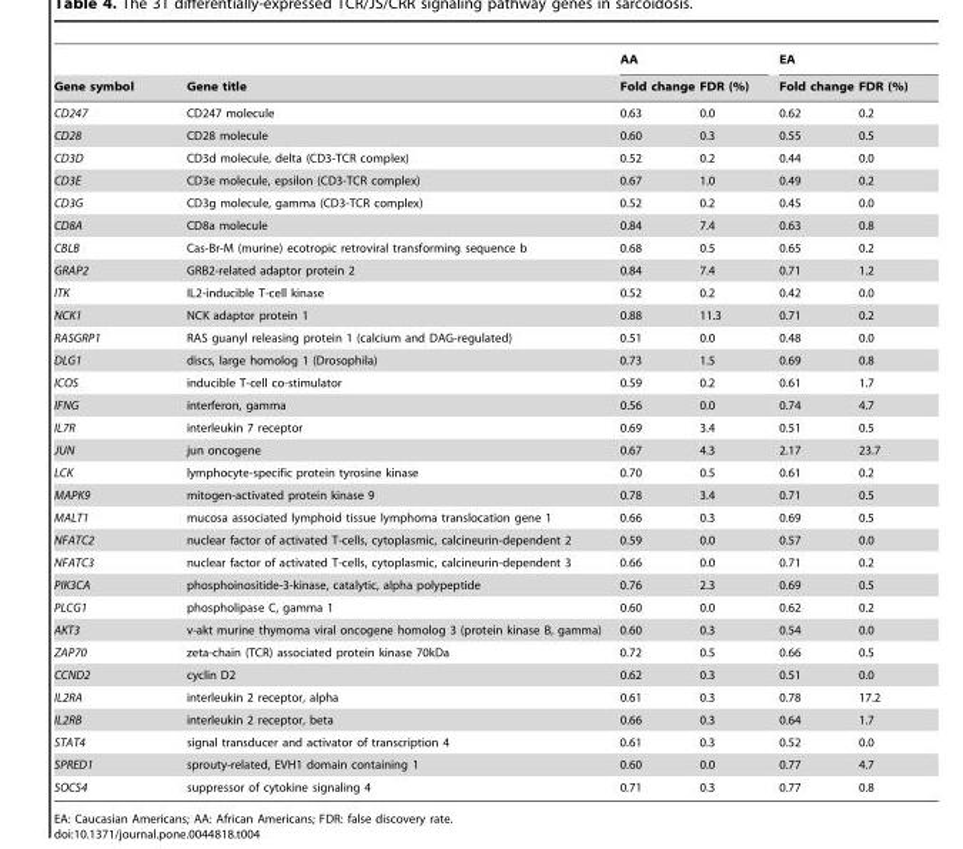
<table><thead><tr><td rowspan="2">Gene symbol</td><td rowspan="2">Gene title</td><td colspan="2">AA</td><td colspan="2">EA</td></tr><tr><td>Fold change</td><td>FDR (%)</td><td>Fold change</td><td>FDR (%)</td></tr></thead><tbody><tr><td>CD247</td><td>CD247 molecule</td><td>0.63</td><td>0.0</td><td>0.62</td><td>0.2</td></tr><tr><td>CD28</td><td>CD28 molecule</td><td>0.60</td><td>0.3</td><td>0.55</td><td>0.5</td></tr><tr><td>CD3D</td><td>CD3d molecule, delta (CD3-TCR complex)</td><td>0.52</td><td>0.2</td><td>0.44</td><td>0.0</td></tr><tr><td>CD3E</td><td>CD3e molecule, epsilon (CD3-TCR complex)</td><td>0.67</td><td>1.0</td><td>0.49</td><td>0.2</td></tr><tr><td>CD3G</td><td>CD3g molecule, gamma (CD3-TCR complex)</td><td>0.52</td><td>0.2</td><td>0.45</td><td>0.0</td></tr><tr><td>CD8A</td><td>CD8a molecule</td><td>0.84</td><td>7.4</td><td>0.63</td><td>0.8</td></tr><tr><td>CBLB</td><td>Cas-Br-M (murine) ecotropic retroviral transforming sequence b</td><td>0.68</td><td>0.5</td><td>0.65</td><td>0.2</td></tr><tr><td>GRAP2</td><td>GRB2-related adaptor protein 2</td><td>0.84</td><td>7.4</td><td>0.71</td><td>1.2</td></tr><tr><td>ITK</td><td>IL2-inducible T-cell kinase</td><td>0.52</td><td>0.2</td><td>0.42</td><td>0.0</td></tr><tr><td>NCK1</td><td>NCK adaptor protein 1</td><td>0.88</td><td>11.3</td><td>0.71</td><td>0.2</td></tr><tr><td>RASGRP1</td><td>RAS guanyl releasing protein 1 (calcium and DAG-regulated)</td><td>0.51</td><td>0.0</td><td>0.48</td><td>0.0</td></tr><tr><td>DLG1</td><td>discs, large homolog 1 (Drosophila)</td><td>0.73</td><td>1.5</td><td>0.69</td><td>0.8</td></tr><tr><td>ICOS</td><td>inducible T-cell co-stimulator</td><td>0.59</td><td>0.2</td><td>0.61</td><td>1.7</td></tr><tr><td>IFNG</td><td>interferon, gamma</td><td>0.56</td><td>0.0</td><td>0.74</td><td>4.7</td></tr><tr><td>IL7R</td><td>interleukin 7 receptor</td><td>0.69</td><td>3.4</td><td>0.51</td><td>0.5</td></tr><tr><td>JUN</td><td>jun oncogene</td><td>0.67</td><td>4.3</td><td>2.17</td><td>23.7</td></tr><tr><td>LCK</td><td>lymphocyte-specific protein tyrosine kinase</td><td>0.70</td><td>0.5</td><td>0.61</td><td>0.2</td></tr><tr><td>MAPK9</td><td>mitogen-activated protein kinase 9</td><td>0.78</td><td>3.4</td><td>0.71</td><td>0.5</td></tr><tr><td>MALT1</td><td>mucosa associated lymphoid tissue lymphoma translocation gene 1</td><td>0.66</td><td>0.3</td><td>0.69</td><td>0.5</td></tr><tr><td>NFATC2</td><td>nuclear factor of activated T-cells, cytoplasmic, calcineurin-dependent 2</td><td>0.59</td><td>0.0</td><td>0.57</td><td>0.0</td></tr><tr><td>NFATC3</td><td>nuclear factor of activated T-cells, cytoplasmic, calcineurin-dependent 3</td><td>0.66</td><td>0.0</td><td>0.71</td><td>0.2</td></tr><tr><td>PIK3CA</td><td>phosphoinositide-3-kinase, catalytic, alpha polypeptide</td><td>0.76</td><td>2.3</td><td>0.69</td><td>0.5</td></tr><tr><td>PLCG1</td><td>phospholipase C, gamma 1</td><td>0.60</td><td>0.0</td><td>0.62</td><td>0.2</td></tr><tr><td>AKT3</td><td>v-akt murine thymoma viral oncogene homolog 3 (protein kinase B, gamma)</td><td>0.60</td><td>0.3</td><td>0.54</td><td>0.0</td></tr><tr><td>ZAP70</td><td>zeta-chain (TCR) associated protein kinase 70kDa</td><td>0.72</td><td>0.5</td><td>0.66</td><td>0.5</td></tr><tr><td>CCND2</td><td>cyclin D2</td><td>0.62</td><td>0.3</td><td>0.51</td><td>0.0</td></tr><tr><td>IL2RA</td><td>interleukin 2 receptor, alpha</td><td>0.61</td><td>0.3</td><td>0.78</td><td>17.2</td></tr><tr><td>IL2RB</td><td>interleukin 2 receptor, beta</td><td>0.66</td><td>0.3</td><td>0.64</td><td>1.7</td></tr><tr><td>STAT4</td><td>signal transducer and activator of transcription 4</td><td>0.61</td><td>0.3</td><td>0.52</td><td>0.0</td></tr><tr><td>SPRED1</td><td>sprouty-related, EVH1 domain containing 1</td><td>0.60</td><td>0.0</td><td>0.77</td><td>4.7</td></tr><tr><td>SOCS4</td><td>suppressor of cytokine signaling 4</td><td>0.71</td><td>0.3</td><td>0.77</td><td>0.8</td></tr></tbody></table>